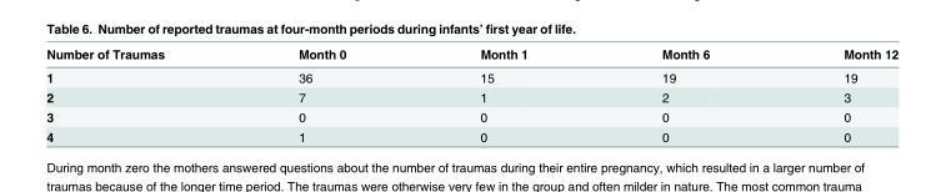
<table><thead><tr><td>Number of Traumas</td><td>Month 0</td><td>Month 1</td><td>Month 6</td><td>Month 12</td></tr></thead><tbody><tr><td>1</td><td>36</td><td>15</td><td>19</td><td>19</td></tr><tr><td>2</td><td>7</td><td>1</td><td>2</td><td>3</td></tr><tr><td>3</td><td>0</td><td>0</td><td>0</td><td>0</td></tr><tr><td>4</td><td>1</td><td>0</td><td>0</td><td>0</td></tr></tbody></table>